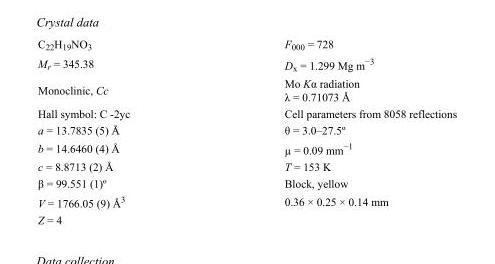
<table><tbody><tr><td>C<sub>22</sub>H<sub>19</sub>NO<sub>3</sub></td><td>F000 = 728</td></tr><tr><td>M<sub>r</sub> = 345.38</td><td>D<sub>x</sub> = 1.299 Mg m<sup>−3</sup></td></tr><tr><td>Monoclinic, Cc</td><td>Mo Kα radiation λ = 0.71073 Å</td></tr><tr><td>Hall symbol: C -2yc</td><td>Cell parameters from 8058 reflections</td></tr><tr><td>a = 13.7835 (5) Å</td><td>θ = 3.0–27.5º</td></tr><tr><td>b = 14.6460 (4) Å</td><td>µ = 0.09 mm<sup>−1</sup></td></tr><tr><td>c = 8.8713 (2) Å</td><td>T = 153 K</td></tr><tr><td>β = 99.551 (1)º</td><td>Block, yellow</td></tr><tr><td>V = 1766.05 (9) Å<sup>3</sup></td><td>0.36 × 0.25 × 0.14 mm</td></tr><tr><td>Z = 4</td><td></td></tr></tbody></table>